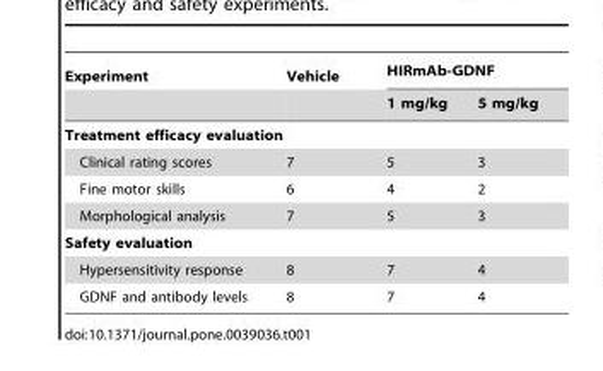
<table><thead><tr><td rowspan="2">Experiment</td><td rowspan="2">Vehicle</td><td colspan="2">HIRmAb-GDNF</td></tr><tr><td>1 mg/kg</td><td>5 mg/kg</td></tr></thead><tbody><tr><td colspan="4">Treatment efficacy evaluation</td></tr><tr><td>Clinical rating scores</td><td>7</td><td>5</td><td>3</td></tr><tr><td>Fine motor skills</td><td>6</td><td>4</td><td>2</td></tr><tr><td>Morphological analysis</td><td>7</td><td>5</td><td>3</td></tr><tr><td colspan="4">Safety evaluation</td></tr><tr><td>Hypersensitivity response</td><td>8</td><td>7</td><td>4</td></tr><tr><td>GDNF and antibody levels</td><td>8</td><td>7</td><td>4</td></tr></tbody></table>